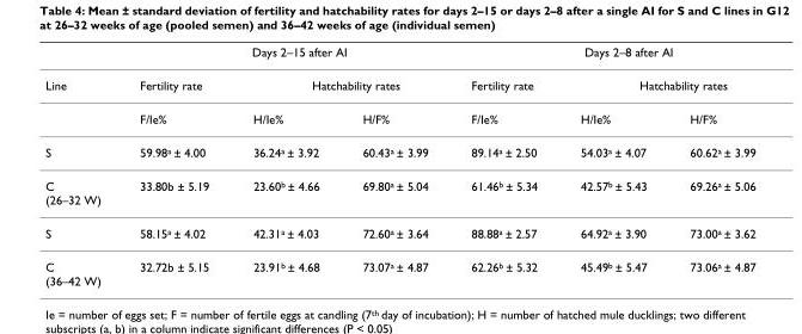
<table><thead><tr><td rowspan="3">Line</td><td colspan="3">Days 2–15 after AI</td><td colspan="3">Days 2–8 after AI</td></tr><tr><td rowspan="2">Fertility rate F/Ie%</td><td colspan="2">Hatchability rates</td><td rowspan="2">Fertility rate F/Ie%</td><td colspan="2">Hatchability rates</td></tr><tr><td>H/Ie%</td><td>H/F%</td><td>H/Ie%</td><td>H/F%</td></tr></thead><tbody><tr><td>S</td><td>59.98<sup>a</sup> ± 4.00</td><td>36.24<sup>a</sup> ± 3.92</td><td>60.43<sup>a</sup> ± 3.99</td><td>89.14<sup>a</sup> ± 2.50</td><td>54.03<sup>a</sup> ± 4.07</td><td>60.62<sup>a</sup> ± 3.99</td></tr><tr><td>C (26–32 W)</td><td>33.80b ± 5.19</td><td>23.60<sup>b</sup> ± 4.66</td><td>69.80<sup>a</sup> ± 5.04</td><td>61.46<sup>b</sup> ± 5.34</td><td>42.57<sup>b</sup> ± 5.43</td><td>69.26<sup>a</sup> ± 5.06</td></tr><tr><td>S</td><td>58.15<sup>a</sup> ± 4.02</td><td>42.31<sup>a</sup> ± 4.03</td><td>72.60<sup>a</sup> ± 3.64</td><td>88.88<sup>a</sup> ± 2.57</td><td>64.92<sup>a</sup> ± 3.90</td><td>73.00<sup>a</sup> ± 3.62</td></tr><tr><td>C (36–42 W)</td><td>32.72b ± 5.15</td><td>23.91<sup>b</sup> ± 4.68</td><td>73.07<sup>a</sup> ± 4.87</td><td>62.26<sup>b</sup> ± 5.32</td><td>45.49<sup>b</sup> ± 5.47</td><td>73.06<sup>a</sup> ± 4.87</td></tr></tbody></table>